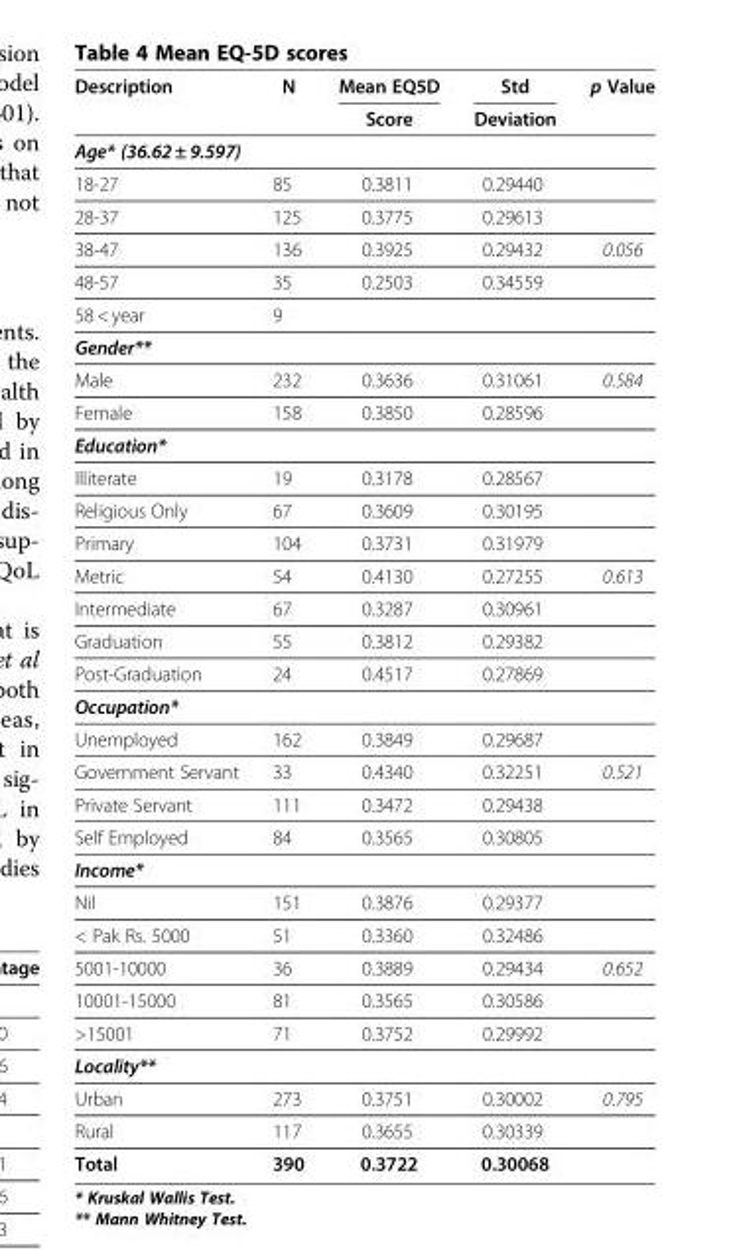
<table><thead><tr><td rowspan="2">Description</td><td rowspan="2">N</td><td rowspan="2">Mean EQ5D Score</td><td rowspan="2">Std Deviation</td><td rowspan="2">p Value</td></tr><tr></tr></thead><tbody><tr><td colspan="5">Age* (36.62 ± 9.597)</td></tr><tr><td>18-27</td><td>85</td><td>0.3811</td><td>0.29440</td><td></td></tr><tr><td>28-37</td><td>125</td><td>0.3775</td><td>0.29613</td><td></td></tr><tr><td>38-47</td><td>136</td><td>0.3925</td><td>0.29432</td><td>0.056</td></tr><tr><td>48-57</td><td>35</td><td>0.2503</td><td>0.34559</td><td></td></tr><tr><td>58 &lt; year</td><td>9</td><td></td><td></td><td></td></tr><tr><td colspan="5">Gender**</td></tr><tr><td>Male</td><td>232</td><td>0.3636</td><td>0.31061</td><td>0.584</td></tr><tr><td>Female</td><td>158</td><td>0.3850</td><td>0.28596</td><td></td></tr><tr><td colspan="5">Education*</td></tr><tr><td>Illiterate</td><td>19</td><td>0.3178</td><td>0.28567</td><td></td></tr><tr><td>Religious Only</td><td>67</td><td>0.3609</td><td>0.30195</td><td></td></tr><tr><td>Primary</td><td>104</td><td>0.3731</td><td>0.31979</td><td></td></tr><tr><td>Metric</td><td>54</td><td>0.4130</td><td>0.27255</td><td>0.613</td></tr><tr><td>Intermediate</td><td>67</td><td>0.3287</td><td>0.30961</td><td></td></tr><tr><td>Graduation</td><td>55</td><td>0.3812</td><td>0.29382</td><td></td></tr><tr><td>Post-Graduation</td><td>24</td><td>0.4517</td><td>0.27869</td><td></td></tr><tr><td colspan="5">Occupation*</td></tr><tr><td>Unemployed</td><td>162</td><td>0.3849</td><td>0.29687</td><td></td></tr><tr><td>Government Servant</td><td>33</td><td>0.4340</td><td>0.32251</td><td>0.521</td></tr><tr><td>Private Servant</td><td>111</td><td>0.3472</td><td>0.29438</td><td></td></tr><tr><td>Self Employed</td><td>84</td><td>0.3565</td><td>0.30805</td><td></td></tr><tr><td colspan="5">Income*</td></tr><tr><td>Nil</td><td>151</td><td>0.3876</td><td>0.29377</td><td></td></tr><tr><td>&lt; Pak Rs. 5000</td><td>51</td><td>0.3360</td><td>0.32486</td><td></td></tr><tr><td>5001-10000</td><td>36</td><td>0.3889</td><td>0.29434</td><td>0.652</td></tr><tr><td>10001-15000</td><td>81</td><td>0.3565</td><td>0.30586</td><td></td></tr><tr><td>&gt;15001</td><td>71</td><td>0.3752</td><td>0.29992</td><td></td></tr><tr><td colspan="5">Locality**</td></tr><tr><td>Urban</td><td>273</td><td>0.3751</td><td>0.30002</td><td>0.795</td></tr><tr><td>Rural</td><td>117</td><td>0.3655</td><td>0.30339</td><td></td></tr><tr><td>Total</td><td>390</td><td>0.3722</td><td>0.30068</td><td></td></tr></tbody></table>